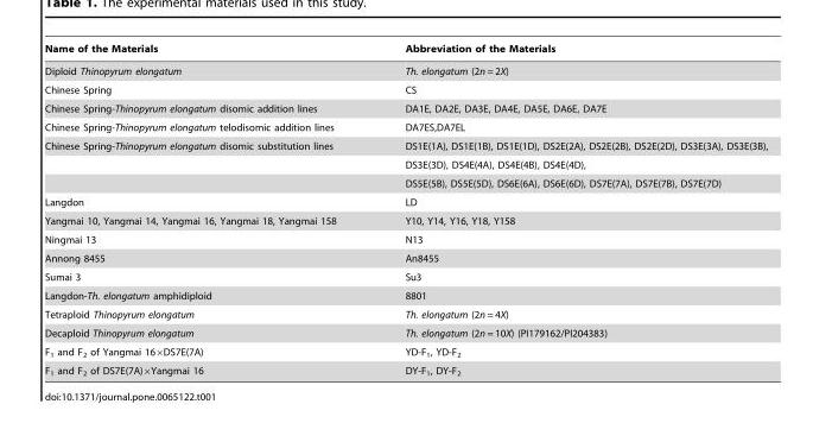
<table><thead><tr><td>Name of the Materials</td><td>Abbreviation of the Materials</td></tr></thead><tbody><tr><td>Diploid Thinopyrum elongatum</td><td>Th. elongatum (2n = 2X)</td></tr><tr><td>Chinese Spring</td><td>CS</td></tr><tr><td>Chinese Spring-Thinopyrum elongatum disomic addition lines</td><td>DA1E, DA2E, DA3E, DA4E, DA5E, DA6E, DA7E</td></tr><tr><td>Chinese Spring-Thinopyrum elongatum telodisomic addition lines</td><td>DA7ES,DA7EL</td></tr><tr><td rowspan="3">Chinese Spring-Thinopyrum elongatum disomic substitution lines</td><td>DS1E(1A), DS1E(1B), DS1E(1D), DS2E(2A), DS2E(2B), DS2E(2D), DS3E(3A), DS3E(3B),</td></tr><tr><td>DS3E(3D), DS4E(4A), DS4E(4B), DS4E(4D),</td></tr><tr><td>DS5E(5B), DS5E(5D), DS6E(6A), DS6E(6D), DS7E(7A), DS7E(7B), DS7E(7D)</td></tr><tr><td>Langdon</td><td>LD</td></tr><tr><td>Yangmai 10, Yangmai 14, Yangmai 16, Yangmai 18, Yangmai 158</td><td>Y10, Y14, Y16, Y18, Y158</td></tr><tr><td>Ningmai 13</td><td>N13</td></tr><tr><td>Annong 8455</td><td>An8455</td></tr><tr><td>Sumai 3</td><td>Su3</td></tr><tr><td>Langdon-Th. elongatum amphidiploid</td><td>8801</td></tr><tr><td>Tetraploid Thinopyrum elongatum</td><td>Th. elongatum (2n = 4X)</td></tr><tr><td>Decaploid Thinopyrum elongatum</td><td>Th. elongatum (2n = 10X) (PI179162/PI204383)</td></tr><tr><td>F<sub>1</sub> and F<sub>2</sub> of Yangmai 16×DS7E(7A)</td><td>YD-F<sub>1</sub>, YD-F<sub>2</sub></td></tr><tr><td>F<sub>1</sub> and F<sub>2</sub> of DS7E(7A)×Yangmai 16</td><td>DY-F<sub>1</sub>, DY-F<sub>2</sub></td></tr></tbody></table>